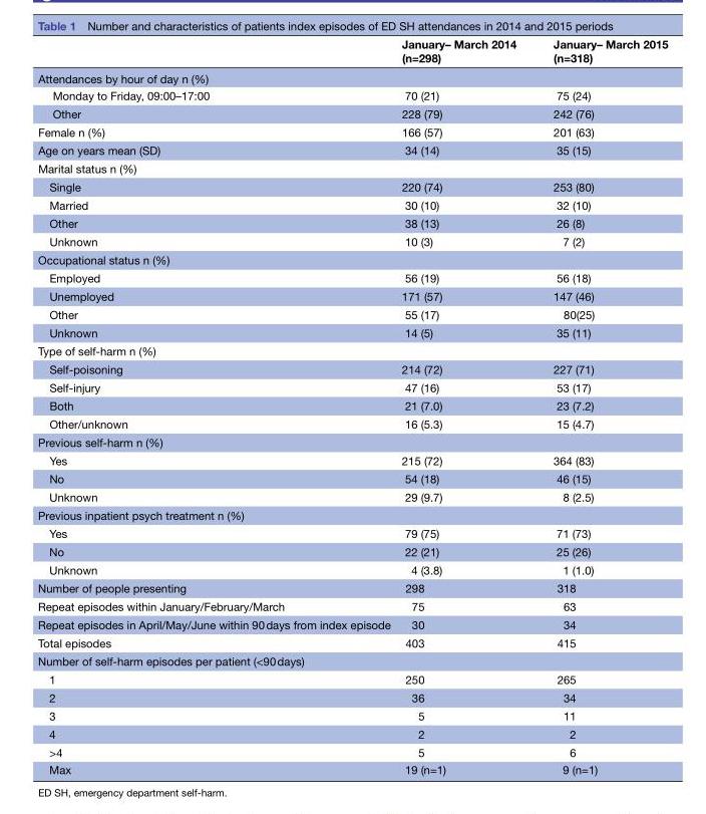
<table><thead><tr><td></td><td>January– March 2014 (n=298)</td><td>January– March 2015 (n=318)</td></tr></thead><tbody><tr><td colspan="3">Attendances by hour of day n (%)</td></tr><tr><td>Monday to Friday, 09:00–17:00</td><td>70 (21)</td><td>75 (24)</td></tr><tr><td>Other</td><td>228 (79)</td><td>242 (76)</td></tr><tr><td>Female n (%)</td><td>166 (57)</td><td>201 (63)</td></tr><tr><td>Age on years mean (SD)</td><td>34 (14)</td><td>35 (15)</td></tr><tr><td colspan="3">Marital status n (%)</td></tr><tr><td>Single</td><td>220 (74)</td><td>253 (80)</td></tr><tr><td>Married</td><td>30 (10)</td><td>32 (10)</td></tr><tr><td>Other</td><td>38 (13)</td><td>26 (8)</td></tr><tr><td>Unknown</td><td>10 (3)</td><td>7 (2)</td></tr><tr><td colspan="3">Occupational status n (%)</td></tr><tr><td>Employed</td><td>56 (19)</td><td>56 (18)</td></tr><tr><td>Unemployed</td><td>171 (57)</td><td>147 (46)</td></tr><tr><td>Other</td><td>55 (17)</td><td>80(25)</td></tr><tr><td>Unknown</td><td>14 (5)</td><td>35 (11)</td></tr><tr><td colspan="3">Type of self-harm n (%)</td></tr><tr><td>Self-poisoning</td><td>214 (72)</td><td>227 (71)</td></tr><tr><td>Self-injury</td><td>47 (16)</td><td>53 (17)</td></tr><tr><td>Both</td><td>21 (7.0)</td><td>23 (7.2)</td></tr><tr><td>Other/unknown</td><td>16 (5.3)</td><td>15 (4.7)</td></tr><tr><td colspan="3">Previous self-harm n (%)</td></tr><tr><td>Yes</td><td>215 (72)</td><td>364 (83)</td></tr><tr><td>No</td><td>54 (18)</td><td>46 (15)</td></tr><tr><td>Unknown</td><td>29 (9.7)</td><td>8 (2.5)</td></tr><tr><td colspan="3">Previous inpatient psych treatment n (%)</td></tr><tr><td>Yes</td><td>79 (75)</td><td>71 (73)</td></tr><tr><td>No</td><td>22 (21)</td><td>25 (26)</td></tr><tr><td>Unknown</td><td>4 (3.8)</td><td>1 (1.0)</td></tr><tr><td>Number of people presenting</td><td>298</td><td>318</td></tr><tr><td>Repeat episodes within January/February/March</td><td>75</td><td>63</td></tr><tr><td>Repeat episodes in April/May/June within 90 days from index episode</td><td>30</td><td>34</td></tr><tr><td>Total episodes</td><td>403</td><td>415</td></tr><tr><td colspan="3">Number of self-harm episodes per patient (&lt;90 days)</td></tr><tr><td>1</td><td>250</td><td>265</td></tr><tr><td>2</td><td>36</td><td>34</td></tr><tr><td>3</td><td>5</td><td>11</td></tr><tr><td>4</td><td>2</td><td>2</td></tr><tr><td>&gt;4</td><td>5</td><td>6</td></tr><tr><td>Max</td><td>19 (n=1)</td><td>9 (n=1)</td></tr></tbody></table>